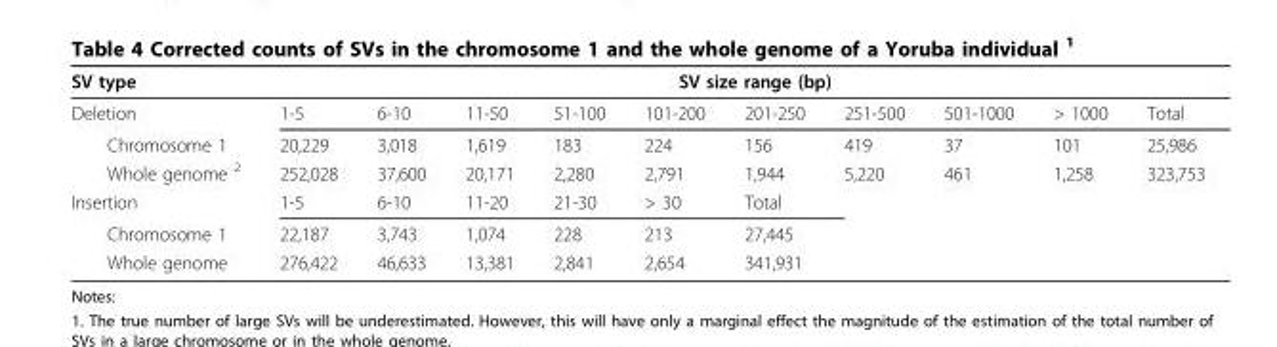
<table><thead><tr><td rowspan="2">SV type Deletion</td><td colspan="10">SV size range (bp)</td></tr><tr><td>1-5</td><td>6-10</td><td>11-50</td><td>51-100</td><td>101-200</td><td>201-250</td><td>251-500</td><td>501-1000</td><td>&gt; 1000</td><td>Total</td></tr></thead><tbody><tr><td>Chromosome 1</td><td>20,229</td><td>3,018</td><td>1,619</td><td>183</td><td>224</td><td>156</td><td>419</td><td>37</td><td>101</td><td>25,986</td></tr><tr><td>Whole genome <sup>2</sup></td><td>252,028</td><td>37,600</td><td>20,171</td><td>2,280</td><td>2,791</td><td>1,944</td><td>5,220</td><td>461</td><td>1,258</td><td>323,753</td></tr><tr><td>Insertion</td><td>1-5</td><td>6-10</td><td>11-20</td><td>21-30</td><td>&gt; 30</td><td>Total</td><td></td><td></td><td></td><td></td></tr><tr><td>Chromosome 1</td><td>22,187</td><td>3,743</td><td>1,074</td><td>228</td><td>213</td><td>27,445</td><td></td><td></td><td></td><td></td></tr><tr><td>Whole genome</td><td>276,422</td><td>46,633</td><td>13,381</td><td>2,841</td><td>2,654</td><td>341,931</td><td></td><td></td><td></td><td></td></tr></tbody></table>